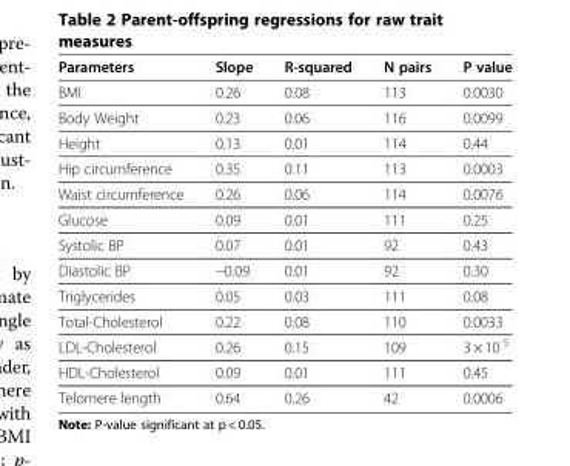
<table><thead><tr><td>Parameters</td><td>Slope</td><td>R-squared</td><td>N pairs</td><td>P value</td></tr></thead><tbody><tr><td>BMI</td><td>0.26</td><td>0.08</td><td>113</td><td>0.0030</td></tr><tr><td>Body Weight</td><td>0.23</td><td>0.06</td><td>116</td><td>0.0099</td></tr><tr><td>Height</td><td>0.13</td><td>0.01</td><td>114</td><td>0.44</td></tr><tr><td>Hip circumference</td><td>0.35</td><td>0.11</td><td>113</td><td>0.0003</td></tr><tr><td>Waist circumference</td><td>0.26</td><td>0.06</td><td>114</td><td>0.0076</td></tr><tr><td>Glucose</td><td>0.09</td><td>0.01</td><td>111</td><td>0.25</td></tr><tr><td>Systolic BP</td><td>0.07</td><td>0.01</td><td>92</td><td>0.43</td></tr><tr><td>Diastolic BP</td><td>−0.09</td><td>0.01</td><td>92</td><td>0.30</td></tr><tr><td>Triglycerides</td><td>0.05</td><td>0.03</td><td>111</td><td>0.08</td></tr><tr><td>Total-Cholesterol</td><td>0.22</td><td>0.08</td><td>110</td><td>0.0033</td></tr><tr><td>LDL-Cholesterol</td><td>0.26</td><td>0.15</td><td>109</td><td>3 × 10<sup>-5</sup></td></tr><tr><td>HDL-Cholesterol</td><td>0.09</td><td>0.01</td><td>111</td><td>0.45</td></tr><tr><td>Telomere length</td><td>0.64</td><td>0.26</td><td>42</td><td>0.0006</td></tr></tbody></table>